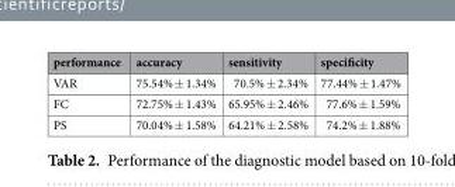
<table><thead><tr><td>performance</td><td>accuracy</td><td>sensitivity</td><td>specificity</td></tr></thead><tbody><tr><td>VAR</td><td>75.54% ± 1.34%</td><td>70.5% ± 2.34%</td><td>77.44% ± 1.47%</td></tr><tr><td>FC</td><td>72.75% ± 1.43%</td><td>65.95% ± 2.46%</td><td>77.6% ± 1.59%</td></tr><tr><td>PS</td><td>70.04% ± 1.58%</td><td>64.21% ± 2.58%</td><td>74.2% ± 1.88%</td></tr></tbody></table>